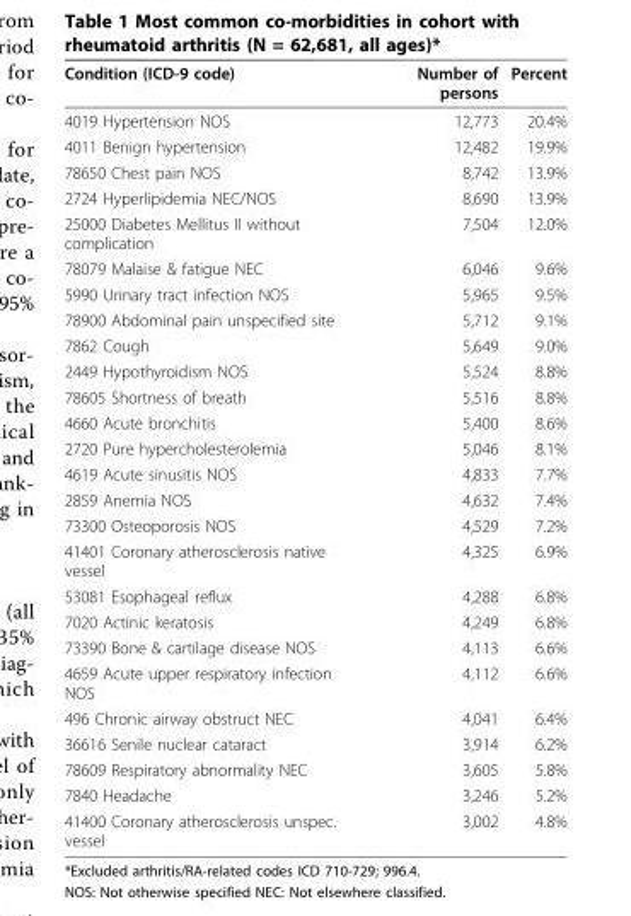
<table><thead><tr><td>Condition (ICD-9 code)</td><td>Number of persons</td><td>Percent</td></tr></thead><tbody><tr><td>4019 Hypertension NOS</td><td>12,773</td><td>20.4%</td></tr><tr><td>4011 Benign hypertension</td><td>12,482</td><td>19.9%</td></tr><tr><td>78650 Chest pain NOS</td><td>8,742</td><td>13.9%</td></tr><tr><td>2724 Hyperlipidemia NEC/NOS</td><td>8,690</td><td>13.9%</td></tr><tr><td>25000 Diabetes Mellitus II without complication</td><td>7,504</td><td>12.0%</td></tr><tr><td>78079 Malaise &amp; fatigue NEC</td><td>6,046</td><td>9.6%</td></tr><tr><td>5990 Urinary tract infection NOS</td><td>5,965</td><td>9.5%</td></tr><tr><td>78900 Abdominal pain unspecified site</td><td>5,712</td><td>9.1%</td></tr><tr><td>7862 Cough</td><td>5,649</td><td>9.0%</td></tr><tr><td>2449 Hypothyroidism NOS</td><td>5,524</td><td>8.8%</td></tr><tr><td>78605 Shortness of breath</td><td>5,516</td><td>8.8%</td></tr><tr><td>4660 Acute bronchitis</td><td>5,400</td><td>8.6%</td></tr><tr><td>2720 Pure hypercholesterolemia</td><td>5,046</td><td>8.1%</td></tr><tr><td>4619 Acute sinusitis NOS</td><td>4,833</td><td>7.7%</td></tr><tr><td>2859 Anemia NOS</td><td>4,632</td><td>7.4%</td></tr><tr><td>73300 Osteoporosis NOS</td><td>4,529</td><td>7.2%</td></tr><tr><td>41401 Coronary atherosclerosis native vessel</td><td>4,325</td><td>6.9%</td></tr><tr><td>53081 Esophageal reflux</td><td>4,288</td><td>6.8%</td></tr><tr><td>7020 Actinic keratosis</td><td>4,249</td><td>6.8%</td></tr><tr><td>73390 Bone &amp; cartilage disease NOS</td><td>4,113</td><td>6.6%</td></tr><tr><td>4659 Acute upper respiratory infection NOS</td><td>4,112</td><td>6.6%</td></tr><tr><td>496 Chronic airway obstruct NEC</td><td>4,041</td><td>6.4%</td></tr><tr><td>36616 Senile nuclear cataract</td><td>3,914</td><td>6.2%</td></tr><tr><td>78609 Respiratory abnormality NEC</td><td>3,605</td><td>5.8%</td></tr><tr><td>7840 Headache</td><td>3,246</td><td>5.2%</td></tr><tr><td>41400 Coronary atherosclerosis unspec. vessel</td><td>3,002</td><td>4.8%</td></tr></tbody></table>